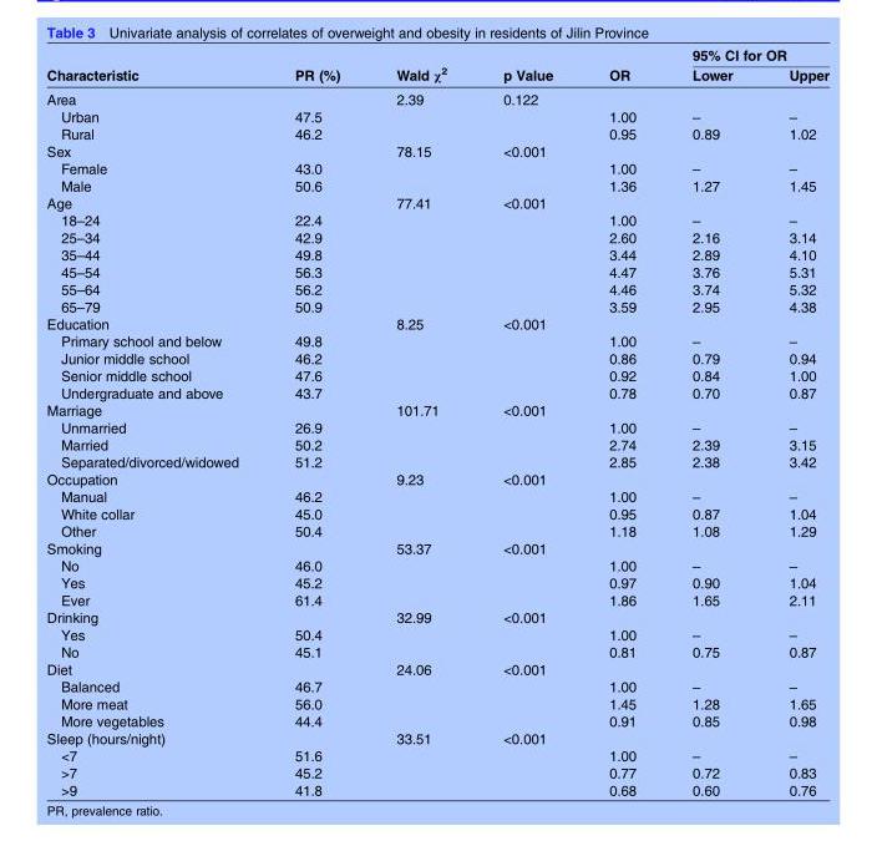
<table><thead><tr><td rowspan="2">Characteristic</td><td rowspan="2">PR (%)</td><td rowspan="2">Wald χ<sup>2</sup></td><td rowspan="2">p Value</td><td rowspan="2">OR</td><td colspan="2">95% CI for OR</td></tr><tr><td>Lower</td><td>Upper</td></tr></thead><tbody><tr><td>Area</td><td></td><td>2.39</td><td>0.122</td><td></td><td></td><td></td></tr><tr><td>Urban</td><td>47.5</td><td></td><td></td><td>1.00</td><td>–</td><td>–</td></tr><tr><td>Rural</td><td>46.2</td><td></td><td></td><td>0.95</td><td>0.89</td><td>1.02</td></tr><tr><td>Sex</td><td></td><td>78.15</td><td>&lt;0.001</td><td></td><td></td><td></td></tr><tr><td>Female</td><td>43.0</td><td></td><td></td><td>1.00</td><td>–</td><td>–</td></tr><tr><td>Male</td><td>50.6</td><td></td><td></td><td>1.36</td><td>1.27</td><td>1.45</td></tr><tr><td>Age</td><td></td><td>77.41</td><td>&lt;0.001</td><td></td><td></td><td></td></tr><tr><td>18–24</td><td>22.4</td><td></td><td></td><td>1.00</td><td>–</td><td>–</td></tr><tr><td>25–34</td><td>42.9</td><td></td><td></td><td>2.60</td><td>2.16</td><td>3.14</td></tr><tr><td>35–44</td><td>49.8</td><td></td><td></td><td>3.44</td><td>2.89</td><td>4.10</td></tr><tr><td>45–54</td><td>56.3</td><td></td><td></td><td>4.47</td><td>3.76</td><td>5.31</td></tr><tr><td>55–64</td><td>56.2</td><td></td><td></td><td>4.46</td><td>3.74</td><td>5.32</td></tr><tr><td>65–79</td><td>50.9</td><td></td><td></td><td>3.59</td><td>2.95</td><td>4.38</td></tr><tr><td>Education</td><td></td><td>8.25</td><td>&lt;0.001</td><td></td><td></td><td></td></tr><tr><td>Primary school and below</td><td>49.8</td><td></td><td></td><td>1.00</td><td>–</td><td>–</td></tr><tr><td>Junior middle school</td><td>46.2</td><td></td><td></td><td>0.86</td><td>0.79</td><td>0.94</td></tr><tr><td>Senior middle school</td><td>47.6</td><td></td><td></td><td>0.92</td><td>0.84</td><td>1.00</td></tr><tr><td>Undergraduate and above</td><td>43.7</td><td></td><td></td><td>0.78</td><td>0.70</td><td>0.87</td></tr><tr><td>Marriage</td><td></td><td>101.71</td><td>&lt;0.001</td><td></td><td></td><td></td></tr><tr><td>Unmarried</td><td>26.9</td><td></td><td></td><td>1.00</td><td>–</td><td>–</td></tr><tr><td>Married</td><td>50.2</td><td></td><td></td><td>2.74</td><td>2.39</td><td>3.15</td></tr><tr><td>Separated/divorced/widowed</td><td>51.2</td><td></td><td></td><td>2.85</td><td>2.38</td><td>3.42</td></tr><tr><td>Occupation</td><td></td><td>9.23</td><td>&lt;0.001</td><td></td><td></td><td></td></tr><tr><td>Manual</td><td>46.2</td><td></td><td></td><td>1.00</td><td>–</td><td>–</td></tr><tr><td>White collar</td><td>45.0</td><td></td><td></td><td>0.95</td><td>0.87</td><td>1.04</td></tr><tr><td>Other</td><td>50.4</td><td></td><td></td><td>1.18</td><td>1.08</td><td>1.29</td></tr><tr><td>Smoking</td><td></td><td>53.37</td><td>&lt;0.001</td><td></td><td></td><td></td></tr><tr><td>No</td><td>46.0</td><td></td><td></td><td>1.00</td><td>–</td><td>–</td></tr><tr><td>Yes</td><td>45.2</td><td></td><td></td><td>0.97</td><td>0.90</td><td>1.04</td></tr><tr><td>Ever</td><td>61.4</td><td></td><td></td><td>1.86</td><td>1.65</td><td>2.11</td></tr><tr><td>Drinking</td><td></td><td>32.99</td><td>&lt;0.001</td><td></td><td></td><td></td></tr><tr><td>Yes</td><td>50.4</td><td></td><td></td><td>1.00</td><td>–</td><td>–</td></tr><tr><td>No</td><td>45.1</td><td></td><td></td><td>0.81</td><td>0.75</td><td>0.87</td></tr><tr><td>Diet</td><td></td><td>24.06</td><td>&lt;0.001</td><td></td><td></td><td></td></tr><tr><td>Balanced</td><td>46.7</td><td></td><td></td><td>1.00</td><td>–</td><td>–</td></tr><tr><td>More meat</td><td>56.0</td><td></td><td></td><td>1.45</td><td>1.28</td><td>1.65</td></tr><tr><td>More vegetables</td><td>44.4</td><td></td><td></td><td>0.91</td><td>0.85</td><td>0.98</td></tr><tr><td>Sleep (hours/night)</td><td></td><td>33.51</td><td>&lt;0.001</td><td></td><td></td><td></td></tr><tr><td>&lt;7</td><td>51.6</td><td></td><td></td><td>1.00</td><td>–</td><td>–</td></tr><tr><td>&gt;7</td><td>45.2</td><td></td><td></td><td>0.77</td><td>0.72</td><td>0.83</td></tr><tr><td>&gt;9</td><td>41.8</td><td></td><td></td><td>0.68</td><td>0.60</td><td>0.76</td></tr></tbody></table>